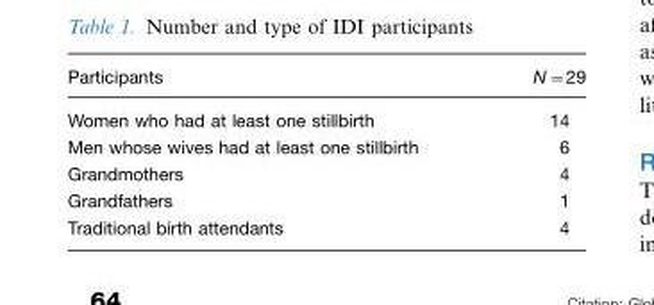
<table><thead><tr><td>Participants</td><td>N=29</td></tr></thead><tbody><tr><td>Women who had at least one stillbirth</td><td>14</td></tr><tr><td>Men whose wives had at least one stillbirth</td><td>6</td></tr><tr><td>Grandmothers</td><td>4</td></tr><tr><td>Grandfathers</td><td>1</td></tr><tr><td>Traditional birth attendants</td><td>4</td></tr></tbody></table>